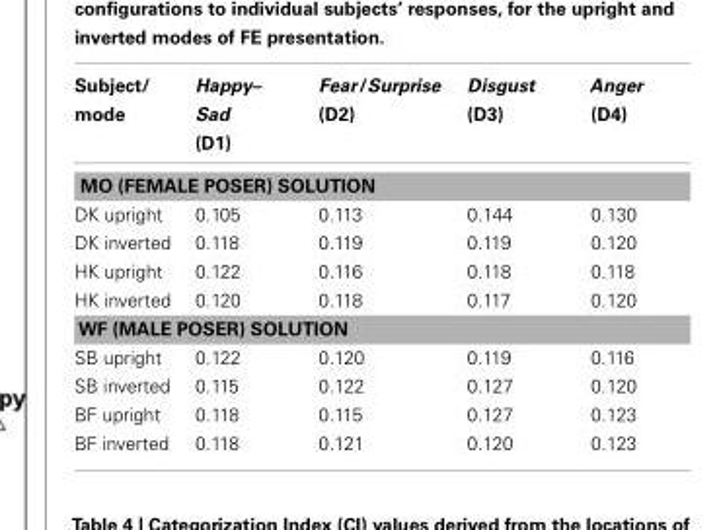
<table><thead><tr><td>Subject/ mode</td><td>Happy– Sad (D1)</td><td>Fear/Surprise (D2)</td><td>Disgust (D3)</td><td>Anger (D4)</td></tr></thead><tbody><tr><td colspan="5">MO (FEMALE POSER) SOLUTION</td></tr><tr><td>DK upright</td><td>0.105</td><td>0.113</td><td>0.144</td><td>0.130</td></tr><tr><td>DK inverted</td><td>0.118</td><td>0.119</td><td>0.119</td><td>0.120</td></tr><tr><td>HK upright</td><td>0.122</td><td>0.116</td><td>0.118</td><td>0.118</td></tr><tr><td>HK inverted</td><td>0.120</td><td>0.118</td><td>0.117</td><td>0.120</td></tr><tr><td colspan="5">WF (MALE POSER) SOLUTION</td></tr><tr><td>SB upright</td><td>0.122</td><td>0.120</td><td>0.119</td><td>0.116</td></tr><tr><td>SB inverted</td><td>0.115</td><td>0.122</td><td>0.127</td><td>0.120</td></tr><tr><td>BF upright</td><td>0.118</td><td>0.115</td><td>0.127</td><td>0.123</td></tr><tr><td>BF inverted</td><td>0.118</td><td>0.121</td><td>0.120</td><td>0.123</td></tr></tbody></table>